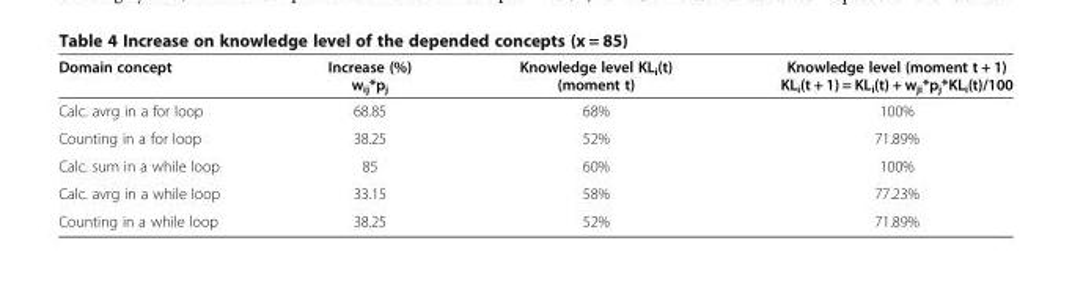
<table><thead><tr><td>Domain concept</td><td>Increase (%) w<sub>ij</sub>*p<sub>j</sub></td><td>Knowledge level KL<sub>i</sub>(t) (moment t)</td><td>Knowledge level (moment t + 1) KL<sub>i</sub>(t + 1) = KL<sub>i</sub>(t) + w<sub>ji</sub>*p<sub>j</sub>*KL<sub>i</sub>(t)/100</td></tr></thead><tbody><tr><td>Calc. avrg in a for loop</td><td>68.85</td><td>68%</td><td>100%</td></tr><tr><td>Counting in a for loop</td><td>38.25</td><td>52%</td><td>71.89%</td></tr><tr><td>Calc. sum in a while loop</td><td>85</td><td>60%</td><td>100%</td></tr><tr><td>Calc. avrg in a while loop</td><td>33.15</td><td>58%</td><td>77.23%</td></tr><tr><td>Counting in a while loop</td><td>38.25</td><td>52%</td><td>71.89%</td></tr></tbody></table>